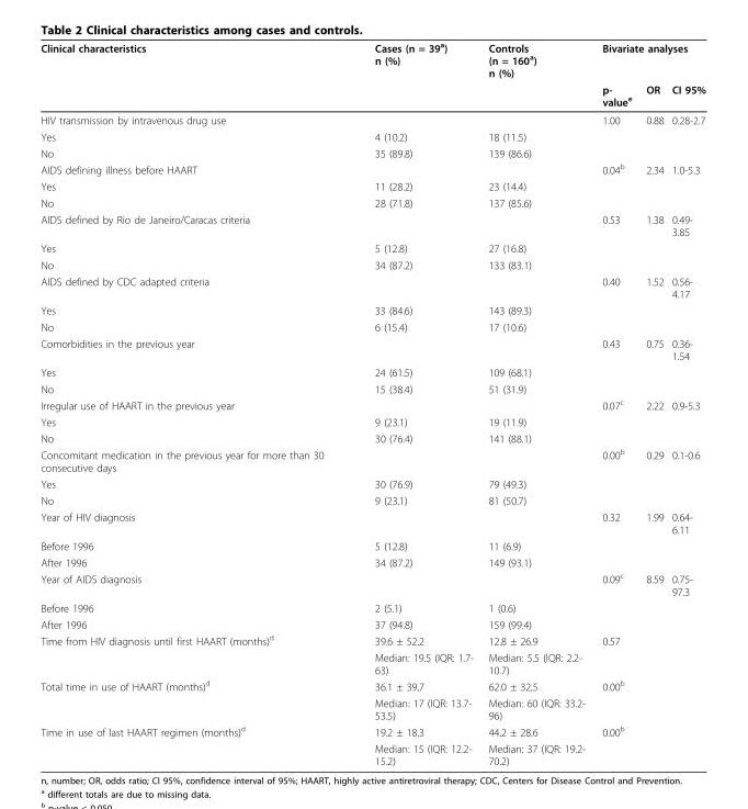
<table><thead><tr><td rowspan="2">Clinical characteristics</td><td rowspan="2">Cases (n = 39<sup>a</sup>) n (%)</td><td rowspan="2">Controls (n = 160<sup>a</sup>) n (%)</td><td colspan="3">Bivariate analyses</td></tr><tr><td>p- value<sup>e</sup></td><td>OR</td><td>CI 95%</td></tr></thead><tbody><tr><td>HIV transmission by intravenous drug use</td><td></td><td></td><td>1.00</td><td>0.88</td><td>0.28-2.7</td></tr><tr><td>Yes</td><td>4 (10.2)</td><td>18 (11.5)</td><td></td><td></td><td></td></tr><tr><td>No</td><td>35 (89.8)</td><td>139 (86.6)</td><td></td><td></td><td></td></tr><tr><td>AIDS defining illness before HAART</td><td></td><td></td><td>0.04<sup>b</sup></td><td>2.34</td><td>1.0-5.3</td></tr><tr><td>Yes</td><td>11 (28.2)</td><td>23 (14.4)</td><td></td><td></td><td></td></tr><tr><td>No</td><td>28 (71.8)</td><td>137 (85.6)</td><td></td><td></td><td></td></tr><tr><td>AIDS defined by Rio de Janeiro/Caracas criteria</td><td></td><td></td><td>0.53</td><td>1.38</td><td>0.49- 3.85</td></tr><tr><td>Yes</td><td>5 (12.8)</td><td>27 (16.8)</td><td></td><td></td><td></td></tr><tr><td>No</td><td>34 (87.2)</td><td>133 (83.1)</td><td></td><td></td><td></td></tr><tr><td>AIDS defined by CDC adapted criteria</td><td></td><td></td><td>0.40</td><td>1.52</td><td>0.56- 4.17</td></tr><tr><td>Yes</td><td>33 (84.6)</td><td>143 (89.3)</td><td></td><td></td><td></td></tr><tr><td>No</td><td>6 (15.4)</td><td>17 (10.6)</td><td></td><td></td><td></td></tr><tr><td>Comorbidities in the previous year</td><td></td><td></td><td>0.43</td><td>0.75</td><td>0.36- 1.54</td></tr><tr><td>Yes</td><td>24 (61.5)</td><td>109 (68.1)</td><td></td><td></td><td></td></tr><tr><td>No</td><td>15 (38.4)</td><td>51 (31.9)</td><td></td><td></td><td></td></tr><tr><td>Irregular use of HAART in the previous year</td><td></td><td></td><td>0.07<sup>c</sup></td><td>2.22</td><td>0.9-5.3</td></tr><tr><td>Yes</td><td>9 (23.1)</td><td>19 (11.9)</td><td></td><td></td><td></td></tr><tr><td>No</td><td>30 (76.4)</td><td>141 (88.1)</td><td></td><td></td><td></td></tr><tr><td>Concomitant medication in the previous year for more than 30 consecutive days</td><td></td><td></td><td>0.00<sup>b</sup></td><td>0.29</td><td>0.1-0.6</td></tr><tr><td>Yes</td><td>30 (76.9)</td><td>79 (49.3)</td><td></td><td></td><td></td></tr><tr><td>No</td><td>9 (23.1)</td><td>81 (50.7)</td><td></td><td></td><td></td></tr><tr><td>Year of HIV diagnosis</td><td></td><td></td><td>0.32</td><td>1.99</td><td>0.64- 6.11</td></tr><tr><td>Before 1996</td><td>5 (12.8)</td><td>11 (6.9)</td><td></td><td></td><td></td></tr><tr><td>After 1996</td><td>34 (87.2)</td><td>149 (93.1)</td><td></td><td></td><td></td></tr><tr><td>Year of AIDS diagnosis</td><td></td><td></td><td>0.09<sup>c</sup></td><td>8.59</td><td>0.75- 97.3</td></tr><tr><td>Before 1996</td><td>2 (5.1)</td><td>1 (0.6)</td><td></td><td></td><td></td></tr><tr><td>After 1996</td><td>37 (94.8)</td><td>159 (99.4)</td><td></td><td></td><td></td></tr><tr><td rowspan="2">Time from HIV diagnosis until first HAART (months)<sup>d</sup></td><td>39.6 ± 52.2</td><td>12.8 ± 26.9</td><td>0.57</td><td></td><td></td></tr><tr><td>Median: 19.5 (IQR: 1.7- 63)</td><td>Median: 5.5 (IQR: 2.2- 10.7)</td><td></td><td></td><td></td></tr><tr><td rowspan="2">Total time in use of HAART (months)<sup>d</sup></td><td>36.1 ± 39,7</td><td>62.0 ± 32,5</td><td>0.00<sup>b</sup></td><td></td><td></td></tr><tr><td>Median: 17 (IQR: 13.7- 53.5)</td><td>Median: 60 (IQR: 33.2- 96)</td><td></td><td></td><td></td></tr><tr><td rowspan="2">Time in use of last HAART regimen (months)<sup>d</sup></td><td>19.2 ± 18.3</td><td>44.2 ± 28.6</td><td>0.00<sup>b</sup></td><td></td><td></td></tr><tr><td>Median: 15 (IQR: 12.2- 15.2)</td><td>Median: 37 (IQR: 19.2- 70.2)</td><td></td><td></td><td></td></tr></tbody></table>